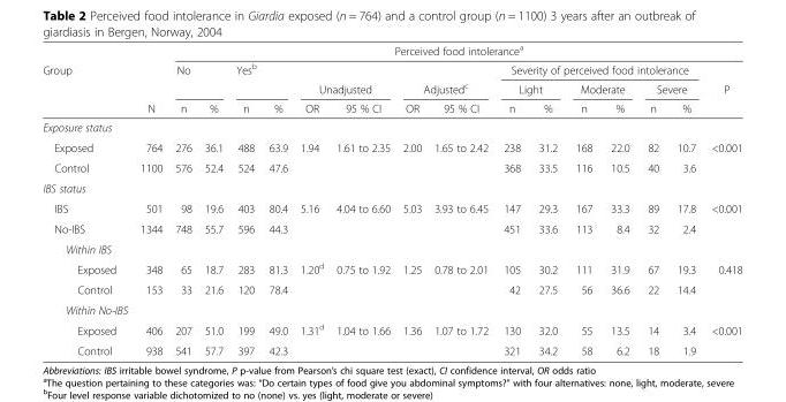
<table><thead><tr><td rowspan="4">Group</td><td rowspan="4">N</td><td colspan="15">Perceived food intolerance<sup>a</sup></td></tr><tr><td rowspan="3">No n</td><td rowspan="3">%</td><td rowspan="3">Yesb n</td><td rowspan="3">%</td><td></td><td></td><td></td><td></td><td colspan="6">Severity of perceived food intolerance</td><td rowspan="3">P</td></tr><tr><td colspan="2">Unadjusted</td><td colspan="2">Adjusted<sup>c</sup></td><td colspan="2">Light</td><td colspan="2">Moderate</td><td colspan="2">Severe</td></tr><tr><td>OR</td><td>95 % CI</td><td>OR</td><td>95 % CI</td><td>n</td><td>%</td><td>n</td><td>%</td><td>n</td><td>%</td></tr></thead><tbody><tr><td colspan="17">Exposure status</td></tr><tr><td>Exposed</td><td>764</td><td>276</td><td>36.1</td><td>488</td><td>63.9</td><td rowspan="2">1.94</td><td rowspan="2">1.61 to 2.35</td><td rowspan="2">2.00</td><td rowspan="2">1.65 to 2.42</td><td>238</td><td>31.2</td><td>168</td><td>22.0</td><td>82</td><td>10.7</td><td rowspan="2">&lt;0.001</td></tr><tr><td>Control</td><td>1100</td><td>576</td><td>52.4</td><td>524</td><td>47.6</td><td>368</td><td>33.5</td><td>116</td><td>10.5</td><td>40</td><td>3.6</td></tr><tr><td colspan="17">IBS status</td></tr><tr><td>IBS</td><td>501</td><td>98</td><td>19.6</td><td>403</td><td>80.4</td><td rowspan="2">5.16</td><td rowspan="2">4.04 to 6.60</td><td rowspan="2">5.03</td><td rowspan="2">3.93 to 6.45</td><td>147</td><td>29.3</td><td>167</td><td>33.3</td><td>89</td><td>17.8</td><td rowspan="2">&lt;0.001</td></tr><tr><td>No-IBS</td><td>1344</td><td>748</td><td>55.7</td><td>596</td><td>44.3</td><td>451</td><td>33.6</td><td>113</td><td>8.4</td><td>32</td><td>2.4</td></tr><tr><td colspan="17">Within IBS</td></tr><tr><td>Exposed</td><td>348</td><td>65</td><td>18.7</td><td>283</td><td>81.3</td><td rowspan="2">1.20<sup>d</sup></td><td rowspan="2">0.75 to 1.92</td><td rowspan="2">1.25</td><td rowspan="2">0.78 to 2.01</td><td>105</td><td>30.2</td><td>111</td><td>31.9</td><td>67</td><td>19.3</td><td rowspan="2">0.418</td></tr><tr><td>Control</td><td>153</td><td>33</td><td>21.6</td><td>120</td><td>78.4</td><td>42</td><td>27.5</td><td>56</td><td>36.6</td><td>22</td><td>14.4</td></tr><tr><td colspan="17">Within No-IBS</td></tr><tr><td>Exposed</td><td>406</td><td>207</td><td>51.0</td><td>199</td><td>49.0</td><td rowspan="2">1.31<sup>d</sup></td><td rowspan="2">1.04 to 1.66</td><td rowspan="2">1.36</td><td rowspan="2">1.07 to 1.72</td><td>130</td><td>32.0</td><td>55</td><td>13.5</td><td>14</td><td>3.4</td><td rowspan="2">&lt;0.001</td></tr><tr><td>Control</td><td>938</td><td>541</td><td>57.7</td><td>397</td><td>42.3</td><td>321</td><td>34.2</td><td>58</td><td>6.2</td><td>18</td><td>1.9</td></tr></tbody></table>